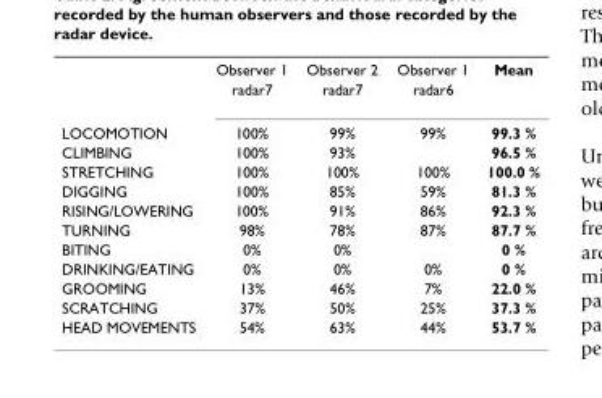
<table><thead><tr><td></td><td>Observer 1</td><td>Observer 2</td><td>Observer 1</td><td>Mean</td></tr></thead><tbody><tr><td></td><td>radar7</td><td>radar7</td><td>radar6</td><td></td></tr><tr><td>LOCOMOTION</td><td>100%</td><td>99%</td><td>99%</td><td>99.3 %</td></tr><tr><td>CLIMBING</td><td>100%</td><td>93%</td><td></td><td>96.5 %</td></tr><tr><td>STRETCHING</td><td>100%</td><td>100%</td><td>100%</td><td>100.0 %</td></tr><tr><td>DIGGING</td><td>100%</td><td>85%</td><td>59%</td><td>81.3 %</td></tr><tr><td>RISING/LOWERING</td><td>100%</td><td>91%</td><td>86%</td><td>92.3 %</td></tr><tr><td>TURNING</td><td>98%</td><td>78%</td><td>87%</td><td>87.7 %</td></tr><tr><td>BITING</td><td>0%</td><td>0%</td><td></td><td>0 %</td></tr><tr><td>DRINKING/EATING</td><td>0%</td><td>0%</td><td>0%</td><td>0 %</td></tr><tr><td>GROOMING</td><td>13%</td><td>46%</td><td>7%</td><td>22.0 %</td></tr><tr><td>SCRATCHING</td><td>37%</td><td>50%</td><td>25%</td><td>37.3 %</td></tr><tr><td>HEAD MOVEMENTS</td><td>54%</td><td>63%</td><td>44%</td><td>53.7 %</td></tr></tbody></table>